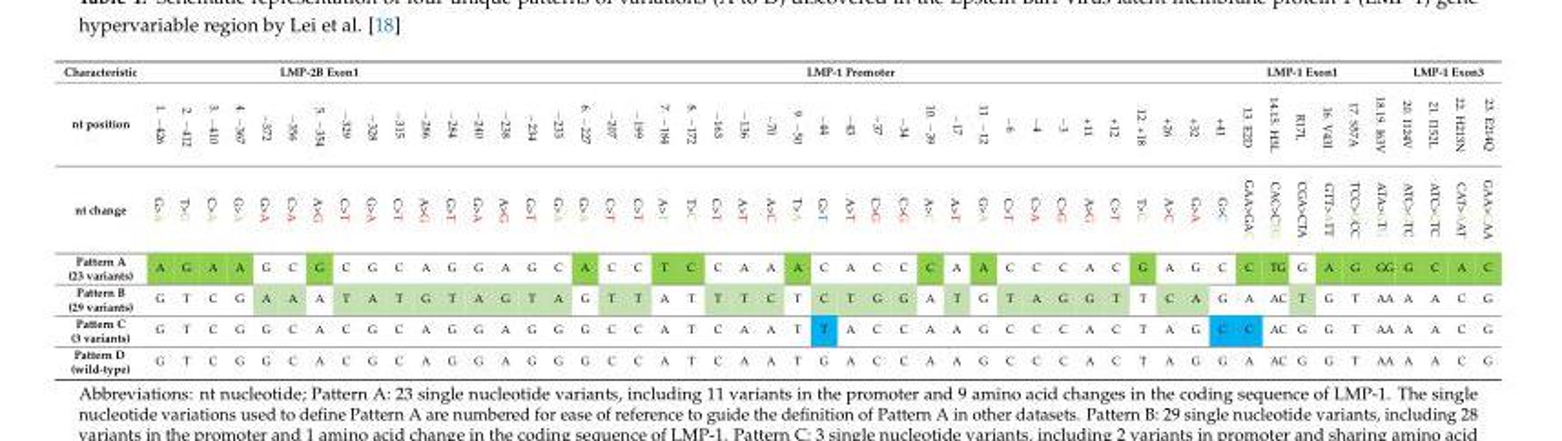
<table><thead><tr><td rowspan="2">Characteristic nt position</td><td colspan="13">LMP-2B Exon1</td><td colspan="27">LMP-1 Promoter</td><td colspan="7">LMP-1 Exon1</td><td colspan="4">LMP-1 Exon3</td></tr><tr><td>1. −426</td><td>2. −412</td><td>3. −410</td><td>4. −367</td><td>−372</td><td>−356</td><td>5. −354</td><td>−329</td><td>−328</td><td>−315</td><td>−286</td><td>−284</td><td>−240</td><td>−238</td><td>−234</td><td>−233</td><td>6. −227</td><td>−207</td><td>−199</td><td>7. −184</td><td>8. −172</td><td>−163</td><td>−136</td><td>−70</td><td>9. −50</td><td>−44</td><td>−43</td><td>−37</td><td>−34</td><td>10. −39</td><td>−17</td><td>11. −12</td><td>−6</td><td>−4</td><td>−3</td><td>+11</td><td>+12</td><td>12. +18</td><td>+26</td><td>+32</td><td>+41</td><td>13. E2D</td><td>14.15. H3L</td><td>R17L</td><td>16. V43I</td><td>17. S57A</td><td>18.19. I63V</td><td>20. I124V</td><td>21. I152L</td><td>22. H213N</td><td>23. E214Q</td></tr></thead><tbody><tr><td>nt change</td><td>G&gt;A</td><td>T&gt;G</td><td>C&gt;A</td><td>G&gt;A</td><td>G&gt;A</td><td>C&gt;A</td><td>A&gt;G</td><td>C&gt;T</td><td>G&gt;A</td><td>C&gt;T</td><td>A&gt;G</td><td>G&gt;T</td><td>G&gt;A</td><td>A&gt;G</td><td>G&gt;T</td><td>G&gt;A</td><td>G&gt;A</td><td>C&gt;T</td><td>C&gt;T</td><td>A&gt;T</td><td>T&gt;C</td><td>C&gt;T</td><td>A&gt;T</td><td>A&gt;C</td><td>T&gt;A</td><td>G&gt;T</td><td>A&gt;T</td><td>C&gt;G</td><td>C&gt;G</td><td>A&gt;C</td><td>A&gt;T</td><td>G&gt;A</td><td>C&gt;T</td><td>C&gt;A</td><td>C&gt;G</td><td>A&gt;G</td><td>C&gt;T</td><td>T&gt;G</td><td>A&gt;C</td><td>G&gt;A</td><td>G&gt;C</td><td>GAA&gt;GAC</td><td>CAC&gt;CTG</td><td>CGA&gt;CTA</td><td>GTT&gt;ATT</td><td>TCC&gt;GCC</td><td>ATA&gt;GTG</td><td>ATC&gt;GTC</td><td>ATC&gt;CTC</td><td>CAT&gt;AAT</td><td>GAA&gt;CAA</td></tr><tr><td>Pattern A (23 variants)</td><td>A</td><td>G</td><td>A</td><td>A</td><td>G</td><td>C</td><td>G</td><td>C</td><td>G</td><td>C</td><td>A</td><td>G</td><td>G</td><td>A</td><td>G</td><td>C</td><td>A</td><td>C</td><td>C</td><td>T</td><td>C</td><td>C</td><td>A</td><td>A</td><td>A</td><td>C</td><td>A</td><td>C</td><td>C</td><td>C</td><td>A</td><td>A</td><td>C</td><td>C</td><td>C</td><td>A</td><td>C</td><td>G</td><td>A</td><td>G</td><td>C</td><td>C</td><td>TG</td><td>G</td><td>A</td><td>G</td><td>GG</td><td>G</td><td>C</td><td>A</td><td>C</td></tr><tr><td>Pattern B (29 variants)</td><td>G</td><td>T</td><td>C</td><td>G</td><td>A</td><td>A</td><td>A</td><td>T</td><td>A</td><td>T</td><td>G</td><td>T</td><td>A</td><td>G</td><td>T</td><td>A</td><td>G</td><td>T</td><td>T</td><td>A</td><td>T</td><td>T</td><td>T</td><td>C</td><td>T</td><td>C</td><td>T</td><td>G</td><td>G</td><td>A</td><td>T</td><td>G</td><td>T</td><td>A</td><td>G</td><td>G</td><td>T</td><td>T</td><td>C</td><td>A</td><td>G</td><td>A</td><td>AC</td><td>T</td><td>G</td><td>T</td><td>AA</td><td>A</td><td>A</td><td>C</td><td>G</td></tr><tr><td>Pattern C (3 variants)</td><td>G</td><td>T</td><td>C</td><td>G</td><td>G</td><td>C</td><td>A</td><td>C</td><td>G</td><td>C</td><td>A</td><td>G</td><td>G</td><td>A</td><td>G</td><td>G</td><td>G</td><td>C</td><td>C</td><td>A</td><td>T</td><td>C</td><td>A</td><td>A</td><td>T</td><td>T</td><td>A</td><td>C</td><td>C</td><td>A</td><td>A</td><td>G</td><td>C</td><td>C</td><td>C</td><td>A</td><td>C</td><td>T</td><td>A</td><td>G</td><td>C</td><td>C</td><td>AC</td><td>G</td><td>G</td><td>T</td><td>AA</td><td>A</td><td>A</td><td>C</td><td>G</td></tr><tr><td>Pattern D (wild-type)</td><td>G</td><td>T</td><td>C</td><td>G</td><td>G</td><td>C</td><td>A</td><td>C</td><td>G</td><td>C</td><td>A</td><td>G</td><td>G</td><td>A</td><td>G</td><td>G</td><td>G</td><td>C</td><td>C</td><td>A</td><td>T</td><td>C</td><td>A</td><td>A</td><td>T</td><td>G</td><td>A</td><td>C</td><td>C</td><td>A</td><td>A</td><td>G</td><td>C</td><td>C</td><td>C</td><td>A</td><td>C</td><td>T</td><td>A</td><td>G</td><td>G</td><td>A</td><td>AC</td><td>G</td><td>G</td><td>T</td><td>AA</td><td>A</td><td>A</td><td>C</td><td>G</td></tr></tbody></table>